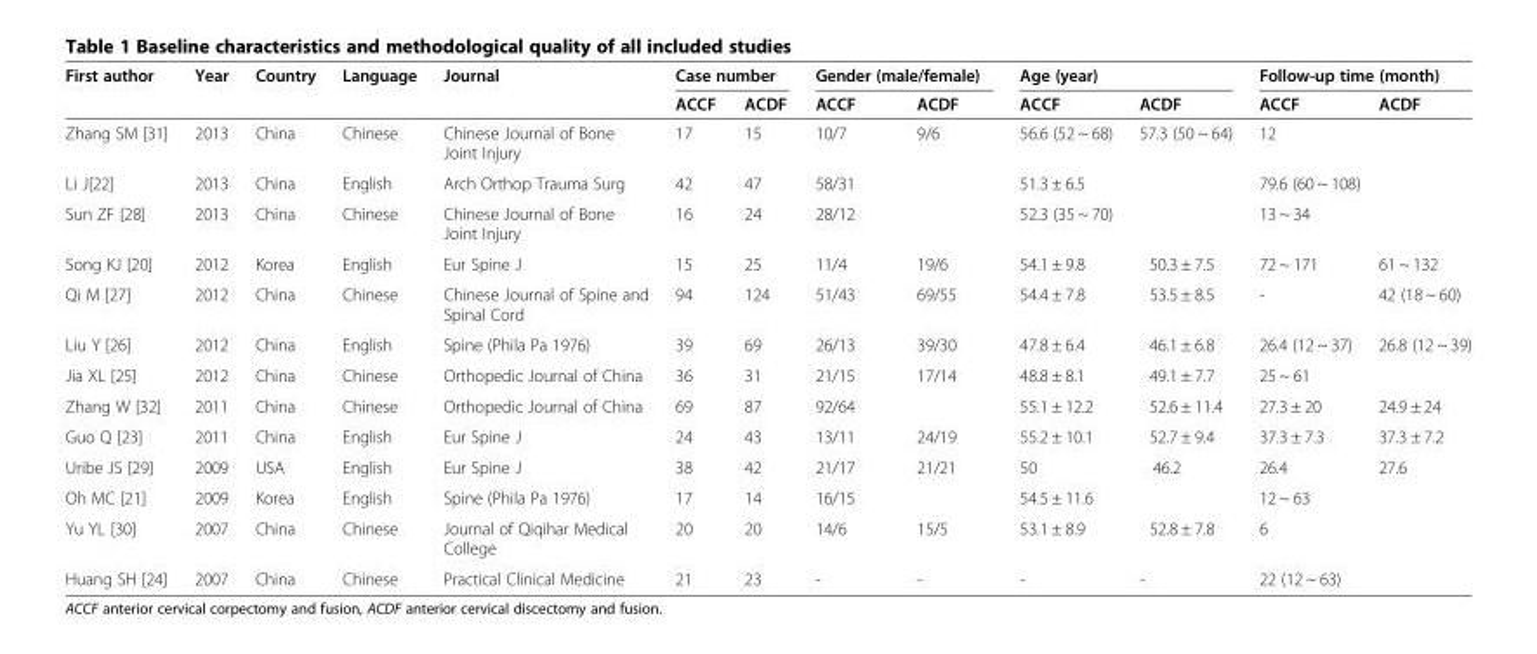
<table><thead><tr><td rowspan="2">First author</td><td rowspan="2">Year</td><td rowspan="2">Country</td><td rowspan="2">Language</td><td rowspan="2">Journal</td><td colspan="2">Case number</td><td colspan="2">Gender (male/female)</td><td colspan="2">Age (year)</td><td colspan="2">Follow-up time (month)</td></tr><tr><td>ACCF</td><td>ACDF</td><td>ACCF</td><td>ACDF</td><td>ACCF</td><td>ACDF</td><td>ACCF</td><td>ACDF</td></tr></thead><tbody><tr><td>Zhang SM [31]</td><td>2013</td><td>China</td><td>Chinese</td><td>Chinese Journal of Bone Joint Injury</td><td>17</td><td>15</td><td>10/7</td><td>9/6</td><td>56.6 (52 ~ 68)</td><td>57.3 (50 ~ 64)</td><td colspan="2">12</td></tr><tr><td>Li J[22]</td><td>2013</td><td>China</td><td>English</td><td>Arch Orthop Trauma Surg</td><td>42</td><td>47</td><td colspan="2">58/31</td><td colspan="2">51.3 ± 6.5</td><td colspan="2">79.6 (60 ~ 108)</td></tr><tr><td>Sun ZF [28]</td><td>2013</td><td>China</td><td>Chinese</td><td>Chinese Journal of Bone Joint Injury</td><td>16</td><td>24</td><td colspan="2">28/12</td><td colspan="2">52.3 (35 ~ 70)</td><td colspan="2">13 ~ 34</td></tr><tr><td>Song KJ [20]</td><td>2012</td><td>Korea</td><td>English</td><td>Eur Spine J</td><td>15</td><td>25</td><td>11/4</td><td>19/6</td><td>54.1 ± 9.8</td><td>50.3 ± 7.5</td><td>72 ~ 171</td><td>61 ~ 132</td></tr><tr><td>Qi M [27]</td><td>2012</td><td>China</td><td>Chinese</td><td>Chinese Journal of Spine and Spinal Cord</td><td>94</td><td>124</td><td>51/43</td><td>69/55</td><td>54.4 ± 7.8</td><td>53.5 ± 8.5</td><td>-</td><td>42 (18 ~ 60)</td></tr><tr><td>Liu Y [26]</td><td>2012</td><td>China</td><td>English</td><td>Spine (Phila Pa 1976)</td><td>39</td><td>69</td><td>26/13</td><td>39/30</td><td>47.8 ± 6.4</td><td>46.1 ± 6.8</td><td>26.4 (12 ~ 37)</td><td>26.8 (12 ~ 39)</td></tr><tr><td>Jia XL [25]</td><td>2012</td><td>China</td><td>Chinese</td><td>Orthopedic Journal of China</td><td>36</td><td>31</td><td>21/15</td><td>17/14</td><td>48.8 ± 8.1</td><td>49.1 ± 7.7</td><td colspan="2">25 ~ 61</td></tr><tr><td>Zhang W [32]</td><td>2011</td><td>China</td><td>Chinese</td><td>Orthopedic Journal of China</td><td>69</td><td>87</td><td colspan="2">92/64</td><td>55.1 ± 12.2</td><td>52.6 ± 11.4</td><td>27.3 ± 20</td><td>24.9 ± 24</td></tr><tr><td>Guo Q [23]</td><td>2011</td><td>China</td><td>English</td><td>Eur Spine J</td><td>24</td><td>43</td><td>13/11</td><td>24/19</td><td>55.2 ± 10.1</td><td>52.7 ± 9.4</td><td>37.3 ± 7.3</td><td>37.3 ± 7.2</td></tr><tr><td>Uribe JS [29]</td><td>2009</td><td>USA</td><td>English</td><td>Eur Spine J</td><td>38</td><td>42</td><td>21/17</td><td>21/21</td><td>50</td><td>46.2</td><td>26.4</td><td>27.6</td></tr><tr><td>Oh MC [21]</td><td>2009</td><td>Korea</td><td>English</td><td>Spine (Phila Pa 1976)</td><td>17</td><td>14</td><td colspan="2">16/15</td><td colspan="2">54.5 ± 11.6</td><td colspan="2">12 ~ 63</td></tr><tr><td>Yu YL [30]</td><td>2007</td><td>China</td><td>Chinese</td><td>Journal of Qiqihar Medical College</td><td>20</td><td>20</td><td>14/6</td><td>15/5</td><td>53.1 ± 8.9</td><td>52.8 ± 7.8</td><td colspan="2">6</td></tr><tr><td>Huang SH [24]</td><td>2007</td><td>China</td><td>Chinese</td><td>Practical Clinical Medicine</td><td>21</td><td>23</td><td>-</td><td>-</td><td>-</td><td>-</td><td colspan="2">22 (12 ~ 63)</td></tr></tbody></table>